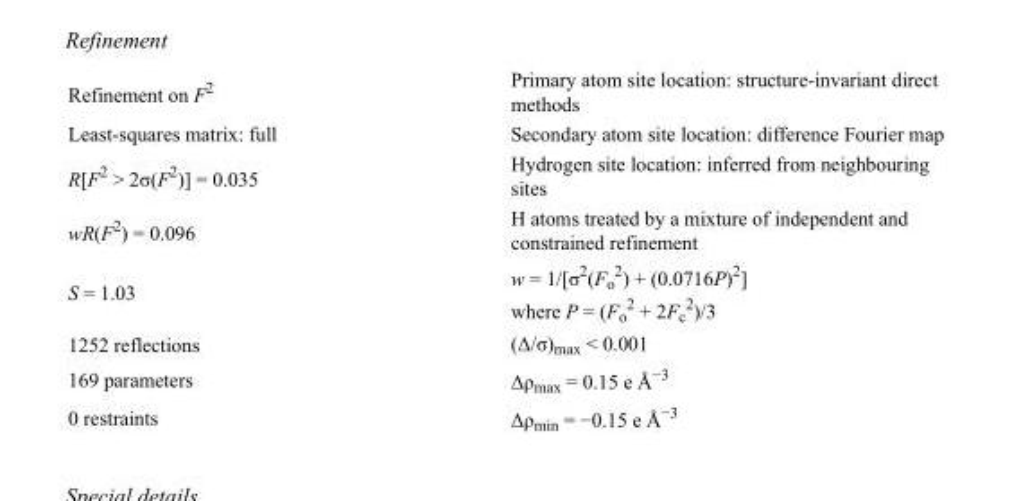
<table><tbody><tr><td>Refinement on F<sup>2</sup></td><td>Primary atom site location: structure-invariant direct methods</td></tr><tr><td>Least-squares matrix: full</td><td>Secondary atom site location: difference Fourier map</td></tr><tr><td>R[F<sup>2</sup> &gt; 2σ(F<sup>2</sup>)] = 0.035</td><td>Hydrogen site location: inferred from neighbouring sites</td></tr><tr><td>wR(F<sup>2</sup>) = 0.096</td><td>H atoms treated by a mixture of independent and constrained refinement</td></tr><tr><td>S = 1.03</td><td>w = 1/[σ<sup>2</sup>(F<sub>o</sub> <sup>2</sup>) + (0.0716P)<sup>2</sup>] where P = (F<sub>o</sub> <sup>2</sup> + 2F<sub>c</sub> <sup>2</sup>)/3</td></tr><tr><td>1252 reflections</td><td>(Δ/σ)<sub>max</sub> &lt; 0.001</td></tr><tr><td>169 parameters</td><td>Δρ<sub>max</sub> = 0.15 e Å<sup>−3</sup></td></tr><tr><td>0 restraints</td><td>Δρ<sub>min</sub> = −0.15 e Å<sup>−3</sup></td></tr></tbody></table>